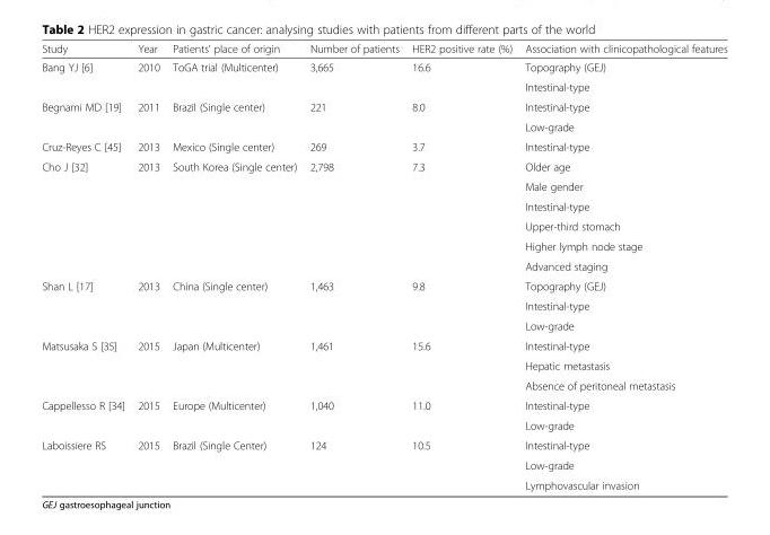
<table><thead><tr><td>Study</td><td>Year</td><td>Patients’ place of origin</td><td>Number of patients</td><td>HER2 positive rate (%)</td><td>Association with clinicopathological features</td></tr></thead><tbody><tr><td rowspan="2">Bang YJ [6]</td><td rowspan="2">2010</td><td rowspan="2">ToGA trial (Multicenter)</td><td rowspan="2">3,665</td><td rowspan="2">16.6</td><td>Topography (GEJ)</td></tr><tr><td>Intestinal-type</td></tr><tr><td rowspan="2">Begnami MD [19]</td><td rowspan="2">2011</td><td rowspan="2">Brazil (Single center)</td><td rowspan="2">221</td><td rowspan="2">8.0</td><td>Intestinal-type</td></tr><tr><td>Low-grade</td></tr><tr><td>Cruz-Reyes C [45]</td><td>2013</td><td>Mexico (Single center)</td><td>269</td><td>3.7</td><td>Intestinal-type</td></tr><tr><td rowspan="6">Cho J [32]</td><td rowspan="6">2013</td><td rowspan="6">South Korea (Single center)</td><td rowspan="6">2,798</td><td rowspan="6">7.3</td><td>Older age</td></tr><tr><td>Male gender</td></tr><tr><td>Intestinal-type</td></tr><tr><td>Upper-third stomach</td></tr><tr><td>Higher lymph node stage</td></tr><tr><td>Advanced staging</td></tr><tr><td rowspan="3">Shan L [17]</td><td rowspan="3">2013</td><td rowspan="3">China (Single center)</td><td rowspan="3">1,463</td><td rowspan="3">9.8</td><td>Topography (GEJ)</td></tr><tr><td>Intestinal-type</td></tr><tr><td>Low-grade</td></tr><tr><td rowspan="3">Matsusaka S [35]</td><td rowspan="3">2015</td><td rowspan="3">Japan (Multicenter)</td><td rowspan="3">1,461</td><td rowspan="3">15.6</td><td>Intestinal-type</td></tr><tr><td>Hepatic metastasis</td></tr><tr><td>Absence of peritoneal metastasis</td></tr><tr><td rowspan="2">Cappellesso R [34]</td><td rowspan="2">2015</td><td rowspan="2">Europe (Multicenter)</td><td rowspan="2">1,040</td><td rowspan="2">11.0</td><td>Intestinal-type</td></tr><tr><td>Low-grade</td></tr><tr><td rowspan="3">Laboissiere RS</td><td rowspan="3">2015</td><td rowspan="3">Brazil (Single Center)</td><td rowspan="3">124</td><td rowspan="3">10.5</td><td>Intestinal-type</td></tr><tr><td>Low-grade</td></tr><tr><td>Lymphovascular invasion</td></tr></tbody></table>